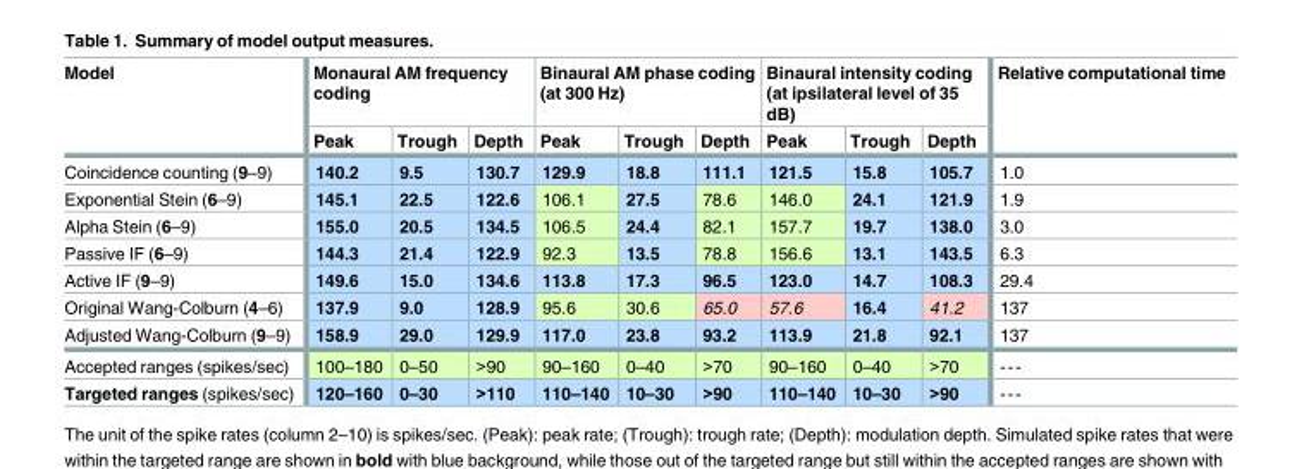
<table><thead><tr><td rowspan="2">Model</td><td colspan="3">Monaural AM frequency coding</td><td colspan="3">Binaural AM phase coding (at 300 Hz)</td><td colspan="3">Binaural intensity coding (at ipsilateral level of 35 dB)</td><td rowspan="2">Relative computational time</td></tr><tr><td>Peak</td><td>Trough</td><td>Depth</td><td>Peak</td><td>Trough</td><td>Depth</td><td>Peak</td><td>Trough</td><td>Depth</td></tr></thead><tbody><tr><td>Coincidence counting (9–9)</td><td>140.2</td><td>9.5</td><td>130.7</td><td>129.9</td><td>18.8</td><td>111.1</td><td>121.5</td><td>15.8</td><td>105.7</td><td>1.0</td></tr><tr><td>Exponential Stein (6–9)</td><td>145.1</td><td>22.5</td><td>122.6</td><td>106.1</td><td>27.5</td><td>78.6</td><td>146.0</td><td>24.1</td><td>121.9</td><td>1.9</td></tr><tr><td>Alpha Stein (6–9)</td><td>155.0</td><td>20.5</td><td>134.5</td><td>106.5</td><td>24.4</td><td>82.1</td><td>157.7</td><td>19.7</td><td>138.0</td><td>3.0</td></tr><tr><td>Passive IF (6–9)</td><td>144.3</td><td>21.4</td><td>122.9</td><td>92.3</td><td>13.5</td><td>78.8</td><td>156.6</td><td>13.1</td><td>143.5</td><td>6.3</td></tr><tr><td>Active IF (9–9)</td><td>149.6</td><td>15.0</td><td>134.6</td><td>113.8</td><td>17.3</td><td>96.5</td><td>123.0</td><td>14.7</td><td>108.3</td><td>29.4</td></tr><tr><td>Original Wang-Colburn (4–6)</td><td>137.9</td><td>9.0</td><td>128.9</td><td>95.6</td><td>30.6</td><td>65.0</td><td>57.6</td><td>16.4</td><td>41.2</td><td>137</td></tr><tr><td>Adjusted Wang-Colburn (9–9)</td><td>158.9</td><td>29.0</td><td>129.9</td><td>117.0</td><td>23.8</td><td>93.2</td><td>113.9</td><td>21.8</td><td>92.1</td><td>137</td></tr><tr><td>Accepted ranges (spikes/sec)</td><td>100–180</td><td>0–50</td><td>&gt;90</td><td>90–160</td><td>0–40</td><td>&gt;70</td><td>90–160</td><td>0–40</td><td>&gt;70</td><td>---</td></tr><tr><td>Targeted ranges (spikes/sec)</td><td>120–160</td><td>0–30</td><td>&gt;110</td><td>110–140</td><td>10–30</td><td>&gt;90</td><td>110–140</td><td>10–30</td><td>&gt;90</td><td>---</td></tr></tbody></table>